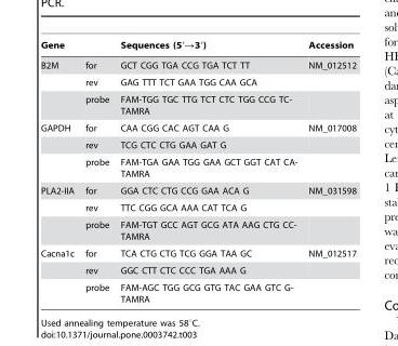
<table><thead><tr><td>Gene</td><td></td><td>Sequences (5′→3′)</td><td>Accession</td></tr></thead><tbody><tr><td rowspan="3">B2M</td><td>for</td><td>GCT CGG TGA CCG TGA TCT TT</td><td>NM_012512</td></tr><tr><td>rev</td><td>GAG TTT TCT GAA TGG CAA GCA</td><td></td></tr><tr><td>probe</td><td>FAM-TGG TGC TTG TCT CTC TGG CCG TC- TAMRA</td><td></td></tr><tr><td rowspan="3">GAPDH</td><td>for</td><td>CAA CGG CAC AGT CAA G</td><td>NM_017008</td></tr><tr><td>rev</td><td>TCG CTC CTG GAA GAT G</td><td></td></tr><tr><td>probe</td><td>FAM-TGA GAA TGG GAA GCT GGT CAT CA- TAMRA</td><td></td></tr><tr><td rowspan="3">PLA2-IIA</td><td>for</td><td>GGA CTC CTG CCG GAA ACA G</td><td>NM_031598</td></tr><tr><td>rev</td><td>TTC CGG GCA AAA CAT TCA G</td><td></td></tr><tr><td>probe</td><td>FAM-TGT GCC AGT GCG ATA AAG CTG CC- TAMRA</td><td></td></tr><tr><td rowspan="3">Cacna1c</td><td>for</td><td>TCA CTG CTG TCG GGA TAA GC</td><td>NM_012517</td></tr><tr><td>rev</td><td>GGC CTT CTC CCC TGA AAA G</td><td></td></tr><tr><td>probe</td><td>FAM-AGC TGG GCG GTG TAC GAA GTC G- TAMRA</td><td></td></tr></tbody></table>